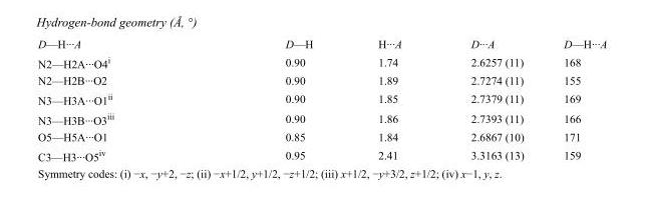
<table><tbody><tr><td>D—H···A</td><td>D—H</td><td>H···A</td><td>D···A</td><td>D—H···A</td></tr><tr><td>N2—H2A···O4<sup>i</sup></td><td>0.90</td><td>1.74</td><td>2.6257 (11)</td><td>168</td></tr><tr><td>N2—H2B···O2</td><td>0.90</td><td>1.89</td><td>2.7274 (11)</td><td>155</td></tr><tr><td>N3—H3A···O1<sup>ii</sup></td><td>0.90</td><td>1.85</td><td>2.7379 (11)</td><td>169</td></tr><tr><td>N3—H3B···O3<sup>iii</sup></td><td>0.90</td><td>1.86</td><td>2.7393 (11)</td><td>166</td></tr><tr><td>O5—H5A···O1</td><td>0.85</td><td>1.84</td><td>2.6867 (10)</td><td>171</td></tr><tr><td>C3—H3···O5<sup>iv</sup></td><td>0.95</td><td>2.41</td><td>3.3163 (13)</td><td>159</td></tr></tbody></table>